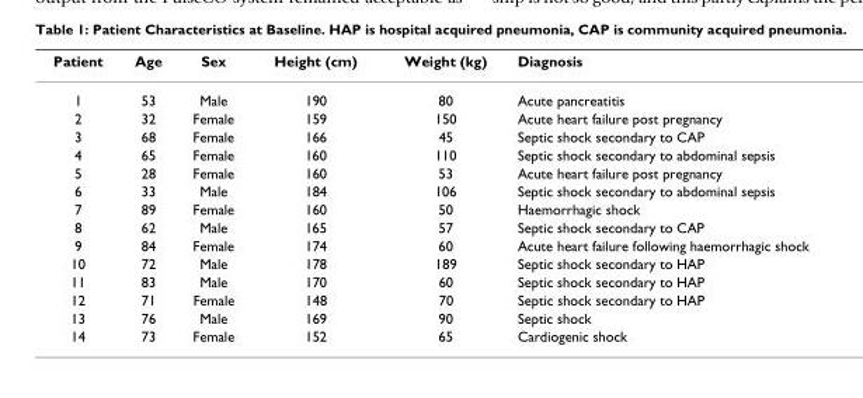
<table><thead><tr><td>Patient</td><td>Age</td><td>Sex</td><td>Height (cm)</td><td>Weight (kg)</td><td>Diagnosis</td></tr></thead><tbody><tr><td>1</td><td>53</td><td>Male</td><td>190</td><td>80</td><td>Acute pancreatitis</td></tr><tr><td>2</td><td>32</td><td>Female</td><td>159</td><td>150</td><td>Acute heart failure post pregnancy</td></tr><tr><td>3</td><td>68</td><td>Female</td><td>166</td><td>45</td><td>Septic shock secondary to CAP</td></tr><tr><td>4</td><td>65</td><td>Female</td><td>160</td><td>110</td><td>Septic shock secondary to abdominal sepsis</td></tr><tr><td>5</td><td>28</td><td>Female</td><td>160</td><td>53</td><td>Acute heart failure post pregnancy</td></tr><tr><td>6</td><td>33</td><td>Male</td><td>184</td><td>106</td><td>Septic shock secondary to abdominal sepsis</td></tr><tr><td>7</td><td>89</td><td>Female</td><td>160</td><td>50</td><td>Haemorrhagic shock</td></tr><tr><td>8</td><td>62</td><td>Male</td><td>165</td><td>57</td><td>Septic shock secondary to CAP</td></tr><tr><td>9</td><td>84</td><td>Female</td><td>174</td><td>60</td><td>Acute heart failure following haemorrhagic shock</td></tr><tr><td>10</td><td>72</td><td>Male</td><td>178</td><td>189</td><td>Septic shock secondary to HAP</td></tr><tr><td>11</td><td>83</td><td>Male</td><td>170</td><td>60</td><td>Septic shock secondary to HAP</td></tr><tr><td>12</td><td>71</td><td>Female</td><td>148</td><td>70</td><td>Septic shock secondary to HAP</td></tr><tr><td>13</td><td>76</td><td>Male</td><td>169</td><td>90</td><td>Septic shock</td></tr><tr><td>14</td><td>73</td><td>Female</td><td>152</td><td>65</td><td>Cardiogenic shock</td></tr></tbody></table>